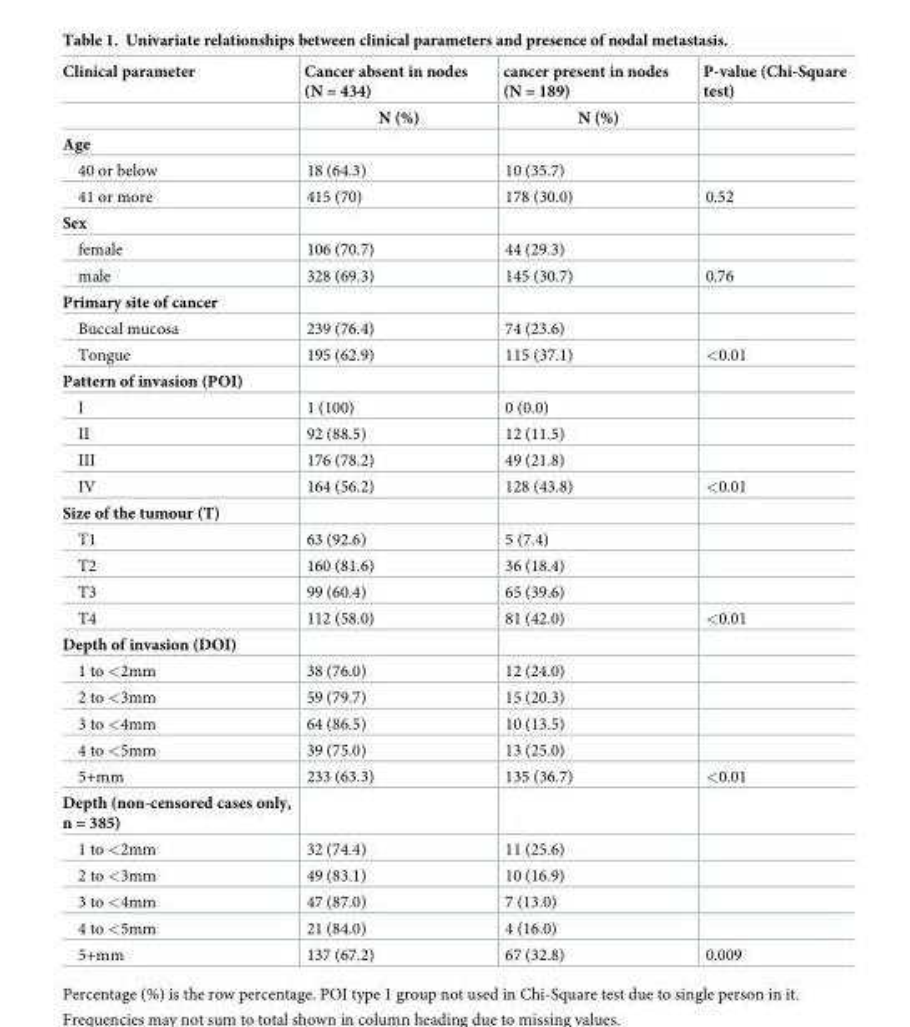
<table><thead><tr><td rowspan="2">Clinical parameter</td><td rowspan="2">Cancer absent in nodes (N = 434) N (%)</td><td rowspan="2">cancer present in nodes (N = 189) N (%)</td><td rowspan="2">P-value (Chi-Square test)</td></tr><tr></tr></thead><tbody><tr><td colspan="4">Age</td></tr><tr><td>40 or below</td><td>18 (64.3)</td><td>10 (35.7)</td><td></td></tr><tr><td>41 or more</td><td>415 (70)</td><td>178 (30.0)</td><td>0.52</td></tr><tr><td colspan="4">Sex</td></tr><tr><td>female</td><td>106 (70.7)</td><td>44 (29.3)</td><td></td></tr><tr><td>male</td><td>328 (69.3)</td><td>145 (30.7)</td><td>0.76</td></tr><tr><td colspan="4">Primary site of cancer</td></tr><tr><td>Buccal mucosa</td><td>239 (76.4)</td><td>74 (23.6)</td><td></td></tr><tr><td>Tongue</td><td>195 (62.9)</td><td>115 (37.1)</td><td>&lt;0.01</td></tr><tr><td colspan="4">Pattern of invasion (POI)</td></tr><tr><td>I</td><td>1 (100)</td><td>0 (0.0)</td><td></td></tr><tr><td>II</td><td>92 (88.5)</td><td>12 (11.5)</td><td></td></tr><tr><td>III</td><td>176 (78.2)</td><td>49 (21.8)</td><td></td></tr><tr><td>IV</td><td>164 (56.2)</td><td>128 (43.8)</td><td>&lt;0.01</td></tr><tr><td colspan="4">Size of the tumour (T)</td></tr><tr><td>T1</td><td>63 (92.6)</td><td>5 (7.4)</td><td></td></tr><tr><td>T2</td><td>160 (81.6)</td><td>36 (18.4)</td><td></td></tr><tr><td>T3</td><td>99 (60.4)</td><td>65 (39.6)</td><td></td></tr><tr><td>T4</td><td>112 (58.0)</td><td>81 (42.0)</td><td>&lt;0.01</td></tr><tr><td colspan="4">Depth of invasion (DOI)</td></tr><tr><td>1 to &lt;2mm</td><td>38 (76.0)</td><td>12 (24.0)</td><td></td></tr><tr><td>2 to &lt;3mm</td><td>59 (79.7)</td><td>15 (20.3)</td><td></td></tr><tr><td>3 to &lt;4mm</td><td>64 (86.5)</td><td>10 (13.5)</td><td></td></tr><tr><td>4 to &lt;5mm</td><td>39 (75.0)</td><td>13 (25.0)</td><td></td></tr><tr><td>5+mm</td><td>233 (63.3)</td><td>135 (36.7)</td><td>&lt;0.01</td></tr><tr><td colspan="4">Depth (non-censored cases only, n = 385)</td></tr><tr><td>1 to &lt;2mm</td><td>32 (74.4)</td><td>11 (25.6)</td><td></td></tr><tr><td>2 to &lt;3mm</td><td>49 (83.1)</td><td>10 (16.9)</td><td></td></tr><tr><td>3 to &lt;4mm</td><td>47 (87.0)</td><td>7 (13.0)</td><td></td></tr><tr><td>4 to &lt;5mm</td><td>21 (84.0)</td><td>4 (16.0)</td><td></td></tr><tr><td>5+mm</td><td>137 (67.2)</td><td>67 (32.8)</td><td>0.009</td></tr></tbody></table>